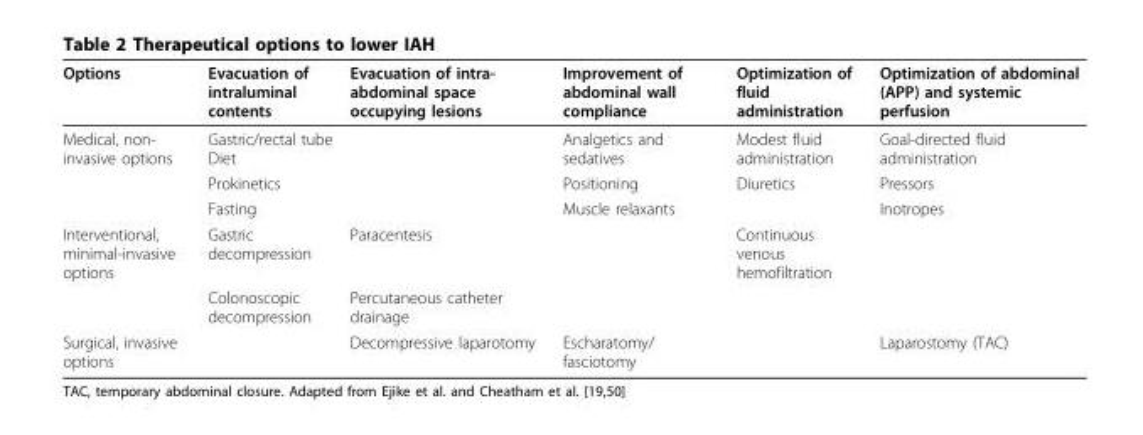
<table><thead><tr><td>Options</td><td>Evacuation of intraluminal contents</td><td>Evacuation of intra- abdominal space occupying lesions</td><td>Improvement of abdominal wall compliance</td><td>Optimization of fluid administration</td><td>Optimization of abdominal (APP) and systemic perfusion</td></tr></thead><tbody><tr><td rowspan="3">Medical, non- invasive options</td><td>Gastric/rectal tube Diet</td><td></td><td>Analgetics and sedatives</td><td>Modest fluid administration</td><td>Goal-directed fluid administration</td></tr><tr><td>Prokinetics</td><td></td><td>Positioning</td><td>Diuretics</td><td>Pressors</td></tr><tr><td>Fasting</td><td></td><td>Muscle relaxants</td><td></td><td>Inotropes</td></tr><tr><td rowspan="2">Interventional, minimal-invasive options</td><td>Gastric decompression</td><td>Paracentesis</td><td></td><td>Continuous venous hemofiltration</td><td></td></tr><tr><td>Colonoscopic decompression</td><td>Percutaneous catheter drainage</td><td></td><td></td><td></td></tr><tr><td>Surgical, invasive options</td><td></td><td>Decompressive laparotomy</td><td>Escharatomy/ fasciotomy</td><td></td><td>Laparostomy (TAC)</td></tr></tbody></table>